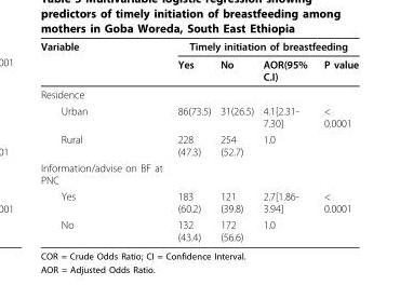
<table><thead><tr><td rowspan="2">Variable</td><td colspan="4">Timely initiation of breastfeeding</td></tr><tr><td>Yes</td><td>No</td><td>AOR(95% C.I)</td><td>P value</td></tr></thead><tbody><tr><td colspan="5">Residence</td></tr><tr><td>Urban</td><td>86(73.5)</td><td>31(26.5)</td><td>4.1[2.31- 7.30]</td><td>&lt; 0.0001</td></tr><tr><td>Rural</td><td>228 (47.3)</td><td>254 (52.7)</td><td>1.0</td><td></td></tr><tr><td colspan="5">Information/advise on BF at PNC</td></tr><tr><td>Yes</td><td>183 (60.2)</td><td>121 (39.8)</td><td>2.7[1.86- 3.94]</td><td>&lt; 0.0001</td></tr><tr><td>No</td><td>132 (43.4)</td><td>172 (56.6)</td><td>1.0</td><td></td></tr></tbody></table>